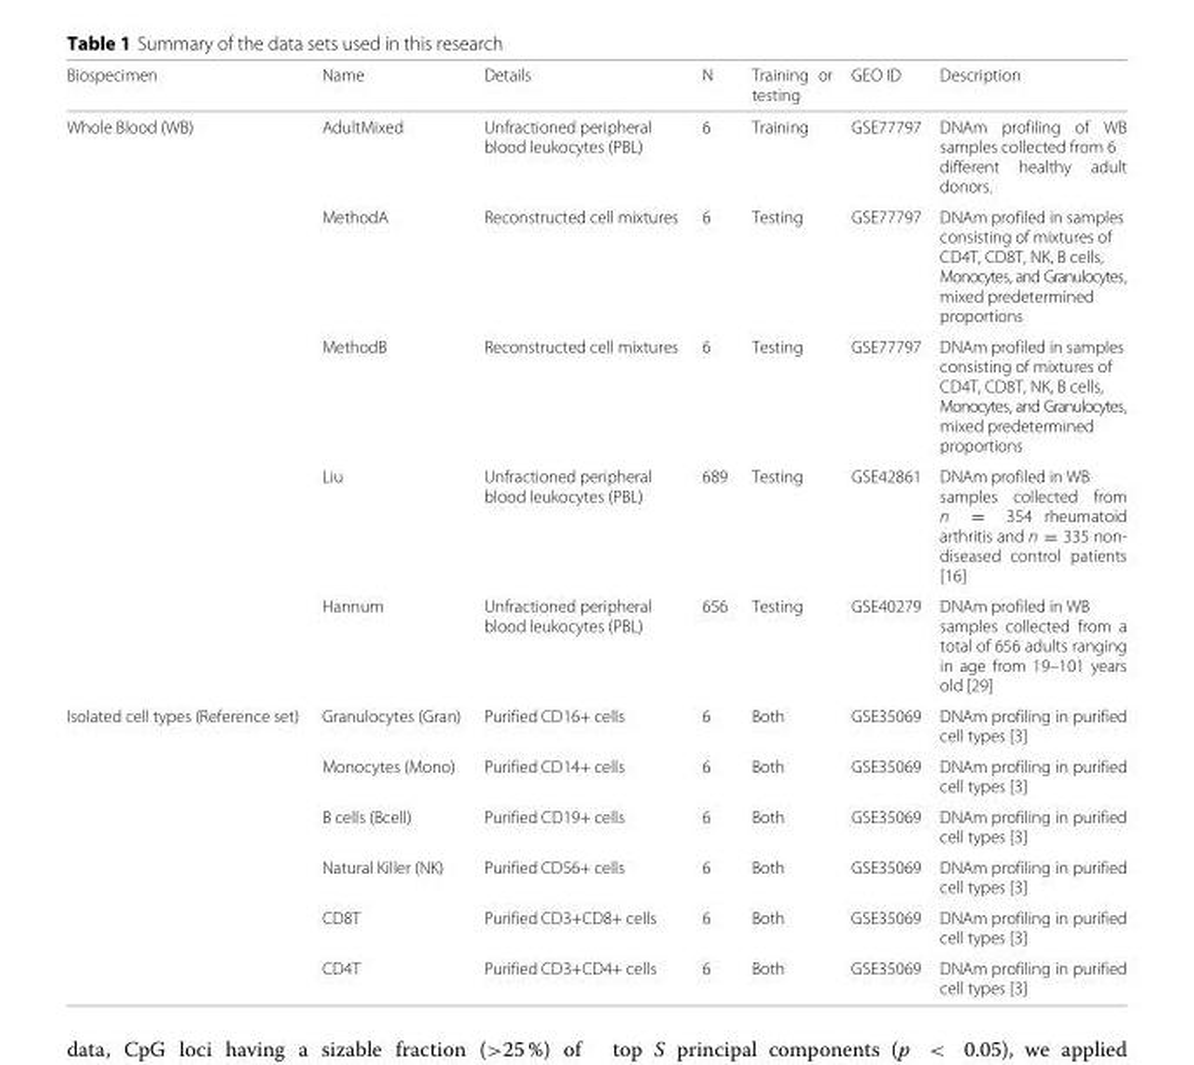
<table><thead><tr><td>Biospecimen</td><td>Name</td><td>Details</td><td>N</td><td>Training or testing</td><td>GEO ID</td><td>Description</td></tr></thead><tbody><tr><td rowspan="5">Whole Blood (WB)</td><td>AdultMixed</td><td>Unfractioned peripheral blood leukocytes (PBL)</td><td>6</td><td>Training</td><td>GSE77797</td><td>DNAm profiling of WB samples collected from 6 different healthy adult donors.</td></tr><tr><td>MethodA</td><td>Reconstructed cell mixtures</td><td>6</td><td>Testing</td><td>GSE77797</td><td>DNAm profiled in samples consisting of mixtures of CD4T, CD8T, NK, B cells, Monocytes, and Granulocytes, mixed predetermined proportions</td></tr><tr><td>MethodB</td><td>Reconstructed cell mixtures</td><td>6</td><td>Testing</td><td>GSE77797</td><td>DNAm profiled in samples consisting of mixtures of CD4T, CD8T, NK, B cells, Monocytes, and Granulocytes, mixed predetermined proportions</td></tr><tr><td>Liu</td><td>Unfractioned peripheral blood leukocytes (PBL)</td><td>689</td><td>Testing</td><td>GSE42861</td><td>DNAm profiled in WB samples collected from n = 354 rheumatoid arthritis and n = 335 non- diseased control patients [16]</td></tr><tr><td>Hannum</td><td>Unfractioned peripheral blood leukocytes (PBL)</td><td>656</td><td>Testing</td><td>GSE40279</td><td>DNAm profiled in WB samples collected from a total of 656 adults ranging in age from 19–101 years old [29]</td></tr><tr><td rowspan="6">Isolated cell types (Reference set)</td><td>Granulocytes (Gran)</td><td>Purified CD16+ cells</td><td>6</td><td>Both</td><td>GSE35069</td><td>DNAm profiling in purified cell types [3]</td></tr><tr><td>Monocytes (Mono)</td><td>Purified CD14+ cells</td><td>6</td><td>Both</td><td>GSE35069</td><td>DNAm profiling in purified cell types [3]</td></tr><tr><td>B cells (Bcell)</td><td>Purified CD19+ cells</td><td>6</td><td>Both</td><td>GSE35069</td><td>DNAm profiling in purified cell types [3]</td></tr><tr><td>Natural Killer (NK)</td><td>Purified CD56+ cells</td><td>6</td><td>Both</td><td>GSE35069</td><td>DNAm profiling in purified cell types [3]</td></tr><tr><td>CD8T</td><td>Purified CD3+CD8+ cells</td><td>6</td><td>Both</td><td>GSE35069</td><td>DNAm profiling in purified cell types [3]</td></tr><tr><td>CD4T</td><td>Purified CD3+CD4+ cells</td><td>6</td><td>Both</td><td>GSE35069</td><td>DNAm profiling in purified cell types [3]</td></tr></tbody></table>